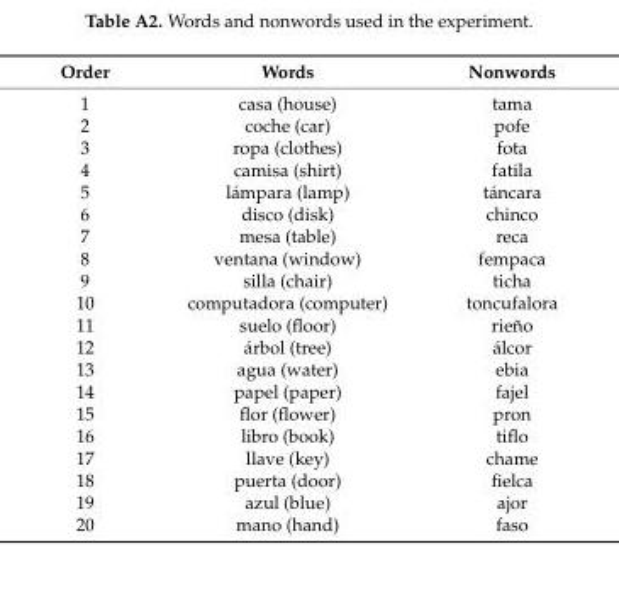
<table><thead><tr><td>Order</td><td>Words</td><td>Nonwords</td></tr></thead><tbody><tr><td>1</td><td>casa (house)</td><td>tama</td></tr><tr><td>2</td><td>coche (car)</td><td>pofe</td></tr><tr><td>3</td><td>ropa (clothes)</td><td>fota</td></tr><tr><td>4</td><td>camisa (shirt)</td><td>fatila</td></tr><tr><td>5</td><td>lámpara (lamp)</td><td>táncara</td></tr><tr><td>6</td><td>disco (disk)</td><td>chinco</td></tr><tr><td>7</td><td>mesa (table)</td><td>reca</td></tr><tr><td>8</td><td>ventana (window)</td><td>fempaca</td></tr><tr><td>9</td><td>silla (chair)</td><td>ticha</td></tr><tr><td>10</td><td>computadora (computer)</td><td>toncufalora</td></tr><tr><td>11</td><td>suelo (floor)</td><td>rieño</td></tr><tr><td>12</td><td>árbol (tree)</td><td>álcor</td></tr><tr><td>13</td><td>agua (water)</td><td>ebia</td></tr><tr><td>14</td><td>papel (paper)</td><td>fajel</td></tr><tr><td>15</td><td>flor (flower)</td><td>pron</td></tr><tr><td>16</td><td>libro (book)</td><td>tiflo</td></tr><tr><td>17</td><td>llave (key)</td><td>chame</td></tr><tr><td>18</td><td>puerta (door)</td><td>fielca</td></tr><tr><td>19</td><td>azul (blue)</td><td>ajor</td></tr><tr><td>20</td><td>mano (hand)</td><td>faso</td></tr></tbody></table>